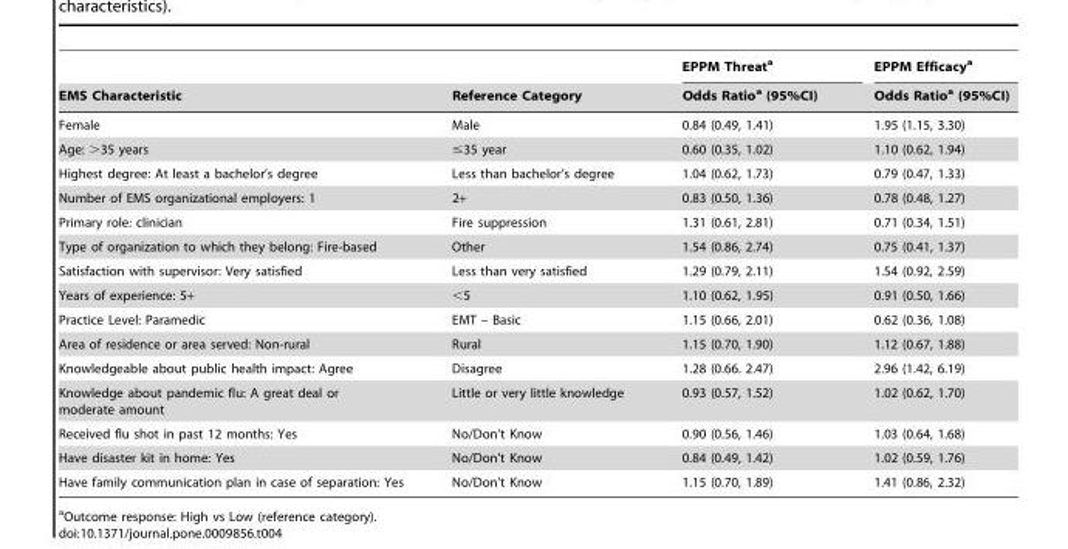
<table><thead><tr><td rowspan="2">EMS Characteristic</td><td rowspan="2">Reference Category</td><td rowspan="2">EPPM Threat<sup>a</sup> Odds Ratio<sup>a</sup> (95%CI)</td><td rowspan="2">EPPM Efficacy<sup>a</sup> Odds Ratio<sup>a</sup> (95%CI)</td></tr><tr></tr></thead><tbody><tr><td>Female</td><td>Male</td><td>0.84 (0.49, 1.41)</td><td>1.95 (1.15, 3.30)</td></tr><tr><td>Age: &gt;35 years</td><td>≤35 year</td><td>0.60 (0.35, 1.02)</td><td>1.10 (0.62, 1.94)</td></tr><tr><td>Highest degree: At least a bachelor’s degree</td><td>Less than bachelor’s degree</td><td>1.04 (0.62, 1.73)</td><td>0.79 (0.47, 1.33)</td></tr><tr><td>Number of EMS organizational employers: 1</td><td>2+</td><td>0.83 (0.50, 1.36)</td><td>0.78 (0.48, 1.27)</td></tr><tr><td>Primary role: clinician</td><td>Fire suppression</td><td>1.31 (0.61, 2.81)</td><td>0.71 (0.34, 1.51)</td></tr><tr><td>Type of organization to which they belong: Fire-based</td><td>Other</td><td>1.54 (0.86, 2.74)</td><td>0.75 (0.41, 1.37)</td></tr><tr><td>Satisfaction with supervisor: Very satisfied</td><td>Less than very satisfied</td><td>1.29 (0.79, 2.11)</td><td>1.54 (0.92, 2.59)</td></tr><tr><td>Years of experience: 5+</td><td>&lt;5</td><td>1.10 (0.62, 1.95)</td><td>0.91 (0.50, 1.66)</td></tr><tr><td>Practice Level: Paramedic</td><td>EMT – Basic</td><td>1.15 (0.66, 2.01)</td><td>0.62 (0.36, 1.08)</td></tr><tr><td>Area of residence or area served: Non-rural</td><td>Rural</td><td>1.15 (0.70, 1.90)</td><td>1.12 (0.67, 1.88)</td></tr><tr><td>Knowledgeable about public health impact: Agree</td><td>Disagree</td><td>1.28 (0.66. 2.47)</td><td>2.96 (1.42, 6.19)</td></tr><tr><td>Knowledge about pandemic flu: A great deal or moderate amount</td><td>Little or very little knowledge</td><td>0.93 (0.57, 1.52)</td><td>1.02 (0.62, 1.70)</td></tr><tr><td>Received flu shot in past 12 months: Yes</td><td>No/Don’t Know</td><td>0.90 (0.56, 1.46)</td><td>1.03 (0.64, 1.68)</td></tr><tr><td>Have disaster kit in home: Yes</td><td>No/Don’t Know</td><td>0.84 (0.49, 1.42)</td><td>1.02 (0.59, 1.76)</td></tr><tr><td>Have family communication plan in case of separation: Yes</td><td>No/Don’t Know</td><td>1.15 (0.70, 1.89)</td><td>1.41 (0.86, 2.32)</td></tr></tbody></table>